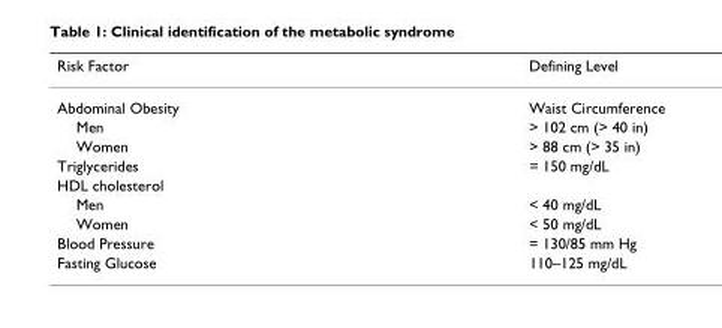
<table><thead><tr><td>Risk Factor</td><td>Defining Level</td></tr></thead><tbody><tr><td>Abdominal Obesity</td><td>Waist Circumference</td></tr><tr><td>Men</td><td>&gt; 102 cm (&gt; 40 in)</td></tr><tr><td>Women</td><td>&gt; 88 cm (&gt; 35 in)</td></tr><tr><td>Triglycerides</td><td>= 150 mg/dL</td></tr><tr><td colspan="2">HDL cholesterol</td></tr><tr><td>Men</td><td>&lt; 40 mg/dL</td></tr><tr><td>Women</td><td>&lt; 50 mg/dL</td></tr><tr><td>Blood Pressure</td><td>= 130/85 mm Hg</td></tr><tr><td>Fasting Glucose</td><td>110–125 mg/dL</td></tr></tbody></table>